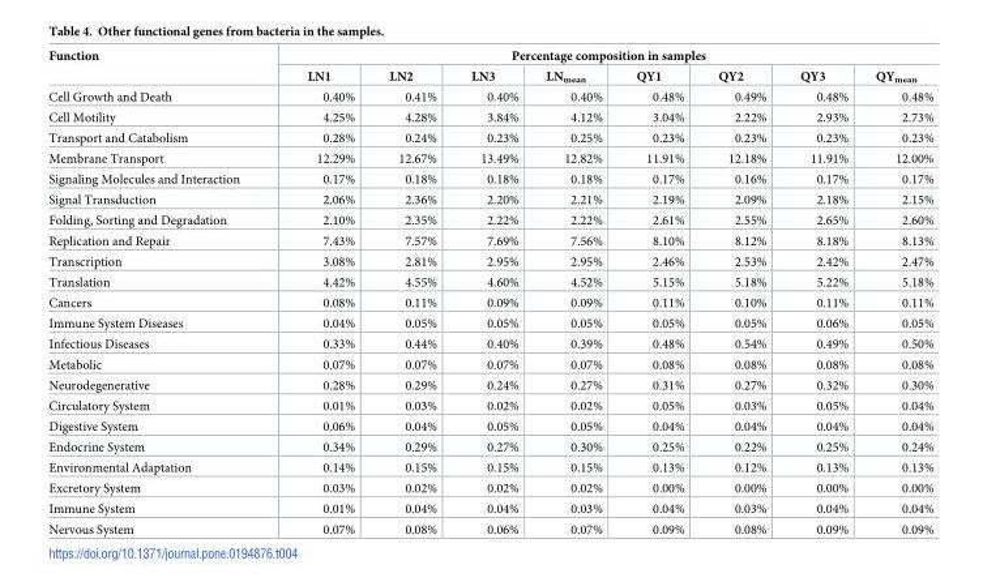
<table><thead><tr><td rowspan="2">Function</td><td colspan="8">Percentage composition in samples</td></tr><tr><td>LN1</td><td>LN2</td><td>LN3</td><td>LN<sub>mean</sub></td><td>QY1</td><td>QY2</td><td>QY3</td><td>QY<sub>mean</sub></td></tr></thead><tbody><tr><td>Cell Growth and Death</td><td>0.40%</td><td>0.41%</td><td>0.40%</td><td>0.40%</td><td>0.48%</td><td>0.49%</td><td>0.48%</td><td>0.48%</td></tr><tr><td>Cell Motility</td><td>4.25%</td><td>4.28%</td><td>3.84%</td><td>4.12%</td><td>3.04%</td><td>2.22%</td><td>2.93%</td><td>2.73%</td></tr><tr><td>Transport and Catabolism</td><td>0.28%</td><td>0.24%</td><td>0.23%</td><td>0.25%</td><td>0.23%</td><td>0.23%</td><td>0.23%</td><td>0.23%</td></tr><tr><td>Membrane Transport</td><td>12.29%</td><td>12.67%</td><td>13.49%</td><td>12.82%</td><td>11.91%</td><td>12.18%</td><td>11.91%</td><td>12.00%</td></tr><tr><td>Signaling Molecules and Interaction</td><td>0.17%</td><td>0.18%</td><td>0.18%</td><td>0.18%</td><td>0.17%</td><td>0.16%</td><td>0.17%</td><td>0.17%</td></tr><tr><td>Signal Transduction</td><td>2.06%</td><td>2.36%</td><td>2.20%</td><td>2.21%</td><td>2.19%</td><td>2.09%</td><td>2.18%</td><td>2.15%</td></tr><tr><td>Folding, Sorting and Degradation</td><td>2.10%</td><td>2.35%</td><td>2.22%</td><td>2.22%</td><td>2.61%</td><td>2.55%</td><td>2.65%</td><td>2.60%</td></tr><tr><td>Replication and Repair</td><td>7.43%</td><td>7.57%</td><td>7.69%</td><td>7.56%</td><td>8.10%</td><td>8.12%</td><td>8.18%</td><td>8.13%</td></tr><tr><td>Transcription</td><td>3.08%</td><td>2.81%</td><td>2.95%</td><td>2.95%</td><td>2.46%</td><td>2.53%</td><td>2.42%</td><td>2.47%</td></tr><tr><td>Translation</td><td>4.42%</td><td>4.55%</td><td>4.60%</td><td>4.52%</td><td>5.15%</td><td>5.18%</td><td>5.22%</td><td>5.18%</td></tr><tr><td>Cancers</td><td>0.08%</td><td>0.11%</td><td>0.09%</td><td>0.09%</td><td>0.11%</td><td>0.10%</td><td>0.11%</td><td>0.11%</td></tr><tr><td>Immune System Diseases</td><td>0.04%</td><td>0.05%</td><td>0.05%</td><td>0.05%</td><td>0.05%</td><td>0.05%</td><td>0.06%</td><td>0.05%</td></tr><tr><td>Infectious Diseases</td><td>0.33%</td><td>0.44%</td><td>0.40%</td><td>0.39%</td><td>0.48%</td><td>0.54%</td><td>0.49%</td><td>0.50%</td></tr><tr><td>Metabolic</td><td>0.07%</td><td>0.07%</td><td>0.07%</td><td>0.07%</td><td>0.08%</td><td>0.08%</td><td>0.08%</td><td>0.08%</td></tr><tr><td>Neurodegenerative</td><td>0.28%</td><td>0.29%</td><td>0.24%</td><td>0.27%</td><td>0.31%</td><td>0.27%</td><td>0.32%</td><td>0.30%</td></tr><tr><td>Circulatory System</td><td>0.01%</td><td>0.03%</td><td>0.02%</td><td>0.02%</td><td>0.05%</td><td>0.03%</td><td>0.05%</td><td>0.04%</td></tr><tr><td>Digestive System</td><td>0.06%</td><td>0.04%</td><td>0.05%</td><td>0.05%</td><td>0.04%</td><td>0.04%</td><td>0.04%</td><td>0.04%</td></tr><tr><td>Endocrine System</td><td>0.34%</td><td>0.29%</td><td>0.27%</td><td>0.30%</td><td>0.25%</td><td>0.22%</td><td>0.25%</td><td>0.24%</td></tr><tr><td>Environmental Adaptation</td><td>0.14%</td><td>0.15%</td><td>0.15%</td><td>0.15%</td><td>0.13%</td><td>0.12%</td><td>0.13%</td><td>0.13%</td></tr><tr><td>Excretory System</td><td>0.03%</td><td>0.02%</td><td>0.02%</td><td>0.02%</td><td>0.00%</td><td>0.00%</td><td>0.00%</td><td>0.00%</td></tr><tr><td>Immune System</td><td>0.01%</td><td>0.04%</td><td>0.04%</td><td>0.03%</td><td>0.04%</td><td>0.03%</td><td>0.04%</td><td>0.04%</td></tr><tr><td>Nervous System</td><td>0.07%</td><td>0.08%</td><td>0.06%</td><td>0.07%</td><td>0.09%</td><td>0.08%</td><td>0.09%</td><td>0.09%</td></tr></tbody></table>